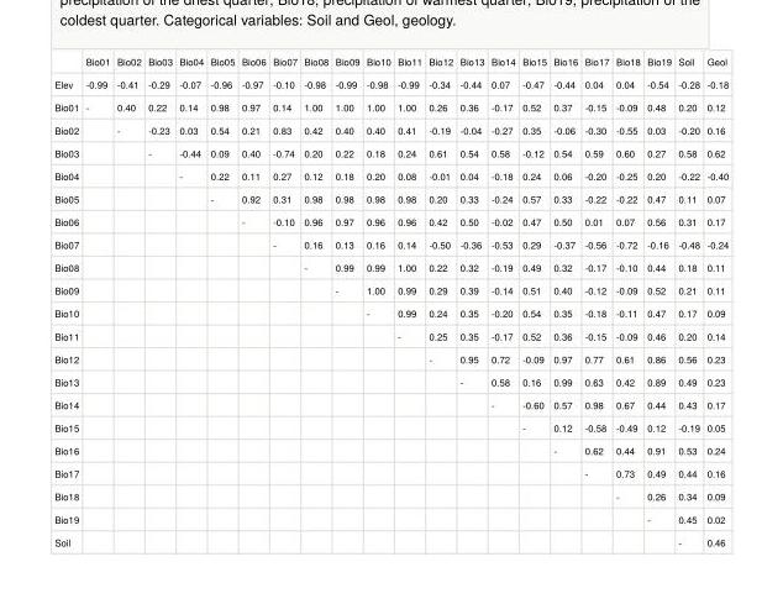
<table><thead><tr><td></td><td>Bio01</td><td>Bio02</td><td>Bio03</td><td>Bio04</td><td>Bio05</td><td>Bio06</td><td>Bio07</td><td>Bio08</td><td>Bio09</td><td>Bio10</td><td>Bio11</td><td>Bio12</td><td>Bio13</td><td>Bio14</td><td>Bio15</td><td>Bio16</td><td>Bio17</td><td>Bio18</td><td>Bio19</td><td>Soil</td><td>Geol</td></tr></thead><tbody><tr><td>Elev</td><td>-0.99</td><td>-0.41</td><td>-0.29</td><td>-0.07</td><td>-0.96</td><td>-0.97</td><td>-0.10</td><td>-0.98</td><td>-0.99</td><td>-0.98</td><td>-0.99</td><td>-0.34</td><td>-0.44</td><td>0.07</td><td>-0.47</td><td>-0.44</td><td>0.04</td><td>0.04</td><td>-0.54</td><td>-0.28</td><td>-0.18</td></tr><tr><td>Bio01</td><td>-</td><td>0.40</td><td>0.22</td><td>0.14</td><td>0.98</td><td>0.97</td><td>0.14</td><td>1.00</td><td>1.00</td><td>1.00</td><td>1.00</td><td>0.26</td><td>0.36</td><td>-0.17</td><td>0.52</td><td>0.37</td><td>-0.15</td><td>-0.09</td><td>0.48</td><td>0.20</td><td>0.12</td></tr><tr><td>Bio02</td><td></td><td>-</td><td>-0.23</td><td>0.03</td><td>0.54</td><td>0.21</td><td>0.83</td><td>0.42</td><td>0.40</td><td>0.40</td><td>0.41</td><td>-0.19</td><td>-0.04</td><td>-0.27</td><td>0.35</td><td>-0.06</td><td>-0.30</td><td>-0.55</td><td>0.03</td><td>-0.20</td><td>0.16</td></tr><tr><td>Bio03</td><td></td><td></td><td>-</td><td>-0.44</td><td>0.09</td><td>0.40</td><td>-0.74</td><td>0.20</td><td>0.22</td><td>0.18</td><td>0.24</td><td>0.61</td><td>0.54</td><td>0.58</td><td>-0.12</td><td>0.54</td><td>0.59</td><td>0.60</td><td>0.27</td><td>0.58</td><td>0.62</td></tr><tr><td>Bio04</td><td></td><td></td><td></td><td>-</td><td>0.22</td><td>0.11</td><td>0.27</td><td>0.12</td><td>0.18</td><td>0.20</td><td>0.08</td><td>-0.01</td><td>0.04</td><td>-0.18</td><td>0.24</td><td>0.06</td><td>-0.20</td><td>-0.25</td><td>0.20</td><td>-0.22</td><td>-0.40</td></tr><tr><td>Bio05</td><td></td><td></td><td></td><td></td><td>-</td><td>0.92</td><td>0.31</td><td>0.98</td><td>0.98</td><td>0.98</td><td>0.98</td><td>0.20</td><td>0.33</td><td>-0.24</td><td>0.57</td><td>0.33</td><td>-0.22</td><td>-0.22</td><td>0.47</td><td>0.11</td><td>0.07</td></tr><tr><td>Bio06</td><td></td><td></td><td></td><td></td><td></td><td>-</td><td>-0.10</td><td>0.96</td><td>0.97</td><td>0.96</td><td>0.96</td><td>0.42</td><td>0.50</td><td>-0.02</td><td>0.47</td><td>0.50</td><td>0.01</td><td>0.07</td><td>0.56</td><td>0.31</td><td>0.17</td></tr><tr><td>Bio07</td><td></td><td></td><td></td><td></td><td></td><td></td><td>-</td><td>0.16</td><td>0.13</td><td>0.16</td><td>0.14</td><td>-0.50</td><td>-0.36</td><td>-0.53</td><td>0.29</td><td>-0.37</td><td>-0.56</td><td>-0.72</td><td>-0.16</td><td>-0.48</td><td>-0.24</td></tr><tr><td>Bio08</td><td></td><td></td><td></td><td></td><td></td><td></td><td></td><td>-</td><td>0.99</td><td>0.99</td><td>1.00</td><td>0.22</td><td>0.32</td><td>-0.19</td><td>0.49</td><td>0.32</td><td>-0.17</td><td>-0.10</td><td>0.44</td><td>0.18</td><td>0.11</td></tr><tr><td>Bio09</td><td></td><td></td><td></td><td></td><td></td><td></td><td></td><td></td><td>-</td><td>1.00</td><td>0.99</td><td>0.29</td><td>0.39</td><td>-0.14</td><td>0.51</td><td>0.40</td><td>-0.12</td><td>-0.09</td><td>0.52</td><td>0.21</td><td>0.11</td></tr><tr><td>Bio10</td><td></td><td></td><td></td><td></td><td></td><td></td><td></td><td></td><td></td><td>-</td><td>0.99</td><td>0.24</td><td>0.35</td><td>-0.20</td><td>0.54</td><td>0.35</td><td>-0.18</td><td>-0.11</td><td>0.47</td><td>0.17</td><td>0.09</td></tr><tr><td>Bio11</td><td></td><td></td><td></td><td></td><td></td><td></td><td></td><td></td><td></td><td></td><td>-</td><td>0.25</td><td>0.35</td><td>-0.17</td><td>0.52</td><td>0.36</td><td>-0.15</td><td>-0.09</td><td>0.46</td><td>0.20</td><td>0.14</td></tr><tr><td>Bio12</td><td></td><td></td><td></td><td></td><td></td><td></td><td></td><td></td><td></td><td></td><td></td><td>-</td><td>0.95</td><td>0.72</td><td>-0.09</td><td>0.97</td><td>0.77</td><td>0.61</td><td>0.86</td><td>0.56</td><td>0.23</td></tr><tr><td>Bio13</td><td></td><td></td><td></td><td></td><td></td><td></td><td></td><td></td><td></td><td></td><td></td><td></td><td>-</td><td>0.58</td><td>0.16</td><td>0.99</td><td>0.63</td><td>0.42</td><td>0.89</td><td>0.49</td><td>0.23</td></tr><tr><td>Bio14</td><td></td><td></td><td></td><td></td><td></td><td></td><td></td><td></td><td></td><td></td><td></td><td></td><td></td><td>-</td><td>-0.60</td><td>0.57</td><td>0.98</td><td>0.67</td><td>0.44</td><td>0.43</td><td>0.17</td></tr><tr><td>Bio15</td><td></td><td></td><td></td><td></td><td></td><td></td><td></td><td></td><td></td><td></td><td></td><td></td><td></td><td></td><td>-</td><td>0.12</td><td>-0.58</td><td>-0.49</td><td>0.12</td><td>-0.19</td><td>0.05</td></tr><tr><td>Bio16</td><td></td><td></td><td></td><td></td><td></td><td></td><td></td><td></td><td></td><td></td><td></td><td></td><td></td><td></td><td></td><td>-</td><td>0.62</td><td>0.44</td><td>0.91</td><td>0.53</td><td>0.24</td></tr><tr><td>Bio17</td><td></td><td></td><td></td><td></td><td></td><td></td><td></td><td></td><td></td><td></td><td></td><td></td><td></td><td></td><td></td><td></td><td>-</td><td>0.73</td><td>0.49</td><td>0.44</td><td>0.16</td></tr><tr><td>Bio18</td><td></td><td></td><td></td><td></td><td></td><td></td><td></td><td></td><td></td><td></td><td></td><td></td><td></td><td></td><td></td><td></td><td></td><td>-</td><td>0.26</td><td>0.34</td><td>0.09</td></tr><tr><td>Bio19</td><td></td><td></td><td></td><td></td><td></td><td></td><td></td><td></td><td></td><td></td><td></td><td></td><td></td><td></td><td></td><td></td><td></td><td></td><td>-</td><td>0.45</td><td>0.02</td></tr><tr><td>Soil</td><td></td><td></td><td></td><td></td><td></td><td></td><td></td><td></td><td></td><td></td><td></td><td></td><td></td><td></td><td></td><td></td><td></td><td></td><td></td><td>-</td><td>0.46</td></tr></tbody></table>